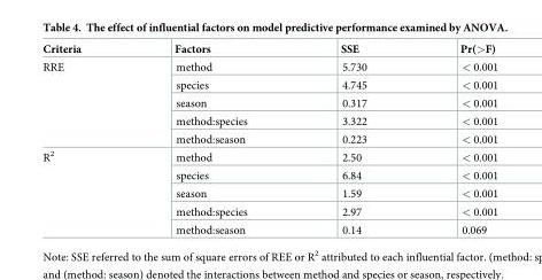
<table><thead><tr><td>Criteria</td><td>Factors</td><td>SSE</td><td>Pr(&gt;F)</td></tr></thead><tbody><tr><td rowspan="5">RRE</td><td>method</td><td>5.730</td><td>&lt; 0.001</td></tr><tr><td>species</td><td>4.745</td><td>&lt; 0.001</td></tr><tr><td>season</td><td>0.317</td><td>&lt; 0.001</td></tr><tr><td>method:species</td><td>3.322</td><td>&lt; 0.001</td></tr><tr><td>method:season</td><td>0.223</td><td>&lt; 0.001</td></tr><tr><td rowspan="5">R<sup>2</sup></td><td>method</td><td>2.50</td><td>&lt; 0.001</td></tr><tr><td>species</td><td>6.84</td><td>&lt; 0.001</td></tr><tr><td>season</td><td>1.59</td><td>&lt; 0.001</td></tr><tr><td>method:species</td><td>2.97</td><td>&lt; 0.001</td></tr><tr><td>method:season</td><td>0.14</td><td>0.069</td></tr></tbody></table>